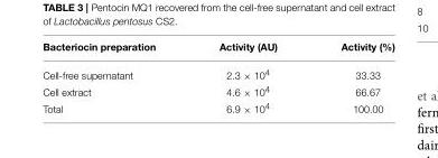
<table><thead><tr><td>Bacteriocin preparation</td><td>Activity (AU)</td><td>Activity (%)</td></tr></thead><tbody><tr><td>Cell-free supernatant</td><td>2.3 × 10<sup>4</sup></td><td>33.33</td></tr><tr><td>Cell extract</td><td>4.6 × 10<sup>4</sup></td><td>66.67</td></tr><tr><td>Total</td><td>6.9 × 10<sup>4</sup></td><td>100.00</td></tr></tbody></table>